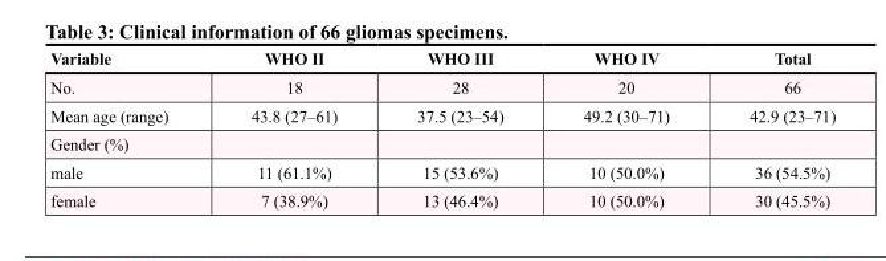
<table><thead><tr><td>Variable</td><td>WHO II</td><td>WHO III</td><td>WHO IV</td><td>Total</td></tr></thead><tbody><tr><td>No.</td><td>18</td><td>28</td><td>20</td><td>66</td></tr><tr><td>Mean age (range)</td><td>43.8 (27–61)</td><td>37.5 (23–54)</td><td>49.2 (30–71)</td><td>42.9 (23–71)</td></tr><tr><td colspan="5">Gender (%)</td></tr><tr><td>male</td><td>11 (61.1%)</td><td>15 (53.6%)</td><td>10 (50.0%)</td><td>36 (54.5%)</td></tr><tr><td>female</td><td>7 (38.9%)</td><td>13 (46.4%)</td><td>10 (50.0%)</td><td>30 (45.5%)</td></tr></tbody></table>